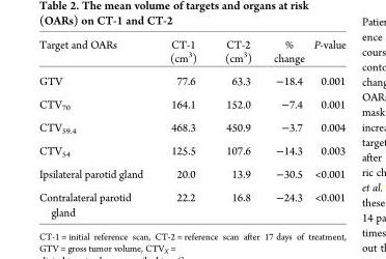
<table><thead><tr><td>Target and OARs</td><td>CT-1 (cm<sup>3</sup>)</td><td>CT-2 (cm<sup>3</sup>)</td><td>% change</td><td>P-value</td></tr></thead><tbody><tr><td>GTV</td><td>77.6</td><td>63.3</td><td>−18.4</td><td>0.001</td></tr><tr><td>CTV<sub>70</sub></td><td>164.1</td><td>152.0</td><td>−7.4</td><td>0.001</td></tr><tr><td>CTV<sub>59.4</sub></td><td>468.3</td><td>450.9</td><td>−3.7</td><td>0.004</td></tr><tr><td>CTV<sub>54</sub></td><td>125.5</td><td>107.6</td><td>−14.3</td><td>0.003</td></tr><tr><td>Ipsilateral parotid gland</td><td>20.0</td><td>13.9</td><td>−30.5</td><td>&lt;0.001</td></tr><tr><td>Contralateral parotid gland</td><td>22.2</td><td>16.8</td><td>−24.3</td><td>&lt;0.001</td></tr></tbody></table>